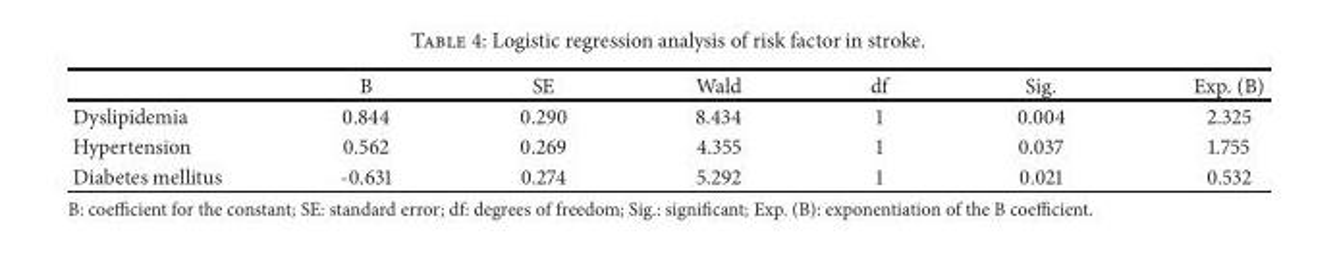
<table><thead><tr><td></td><td>B</td><td>SE</td><td>Wald</td><td>df</td><td>Sig.</td><td>Exp. (B)</td></tr></thead><tbody><tr><td>Dyslipidemia</td><td>0.844</td><td>0.290</td><td>8.434</td><td>1</td><td>0.004</td><td>2.325</td></tr><tr><td>Hypertension</td><td>0.562</td><td>0.269</td><td>4.355</td><td>1</td><td>0.037</td><td>1.755</td></tr><tr><td>Diabetes mellitus</td><td>-0.631</td><td>0.274</td><td>5.292</td><td>1</td><td>0.021</td><td>0.532</td></tr></tbody></table>